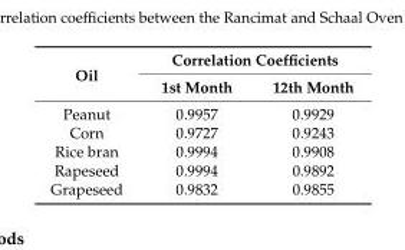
<table><thead><tr><td rowspan="2">Oil</td><td colspan="2">Correlation Coefficients</td></tr><tr><td>1st Month</td><td>12th Month</td></tr></thead><tbody><tr><td>Peanut</td><td>0.9957</td><td>0.9929</td></tr><tr><td>Corn</td><td>0.9727</td><td>0.9243</td></tr><tr><td>Rice bran</td><td>0.9994</td><td>0.9908</td></tr><tr><td>Rapeseed</td><td>0.9994</td><td>0.9892</td></tr><tr><td>Grapeseed</td><td>0.9832</td><td>0.9855</td></tr></tbody></table>